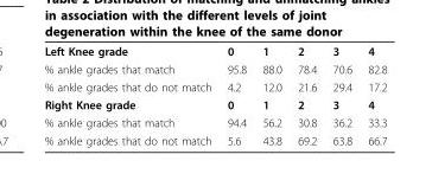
<table><tbody><tr><td>Left Knee grade</td><td>0</td><td>1</td><td>2</td><td>3</td><td>4</td></tr><tr><td>% ankle grades that match</td><td>95.8</td><td>88.0</td><td>78.4</td><td>70.6</td><td>82.8</td></tr><tr><td>% ankle grades that do not match</td><td>4.2</td><td>12.0</td><td>21.6</td><td>29.4</td><td>17.2</td></tr><tr><td>Right Knee grade</td><td>0</td><td>1</td><td>2</td><td>3</td><td>4</td></tr><tr><td>% ankle grades that match</td><td>94.4</td><td>56.2</td><td>30.8</td><td>36.2</td><td>33.3</td></tr><tr><td>% ankle grades that do not match</td><td>5.6</td><td>43.8</td><td>69.2</td><td>63.8</td><td>66.7</td></tr></tbody></table>